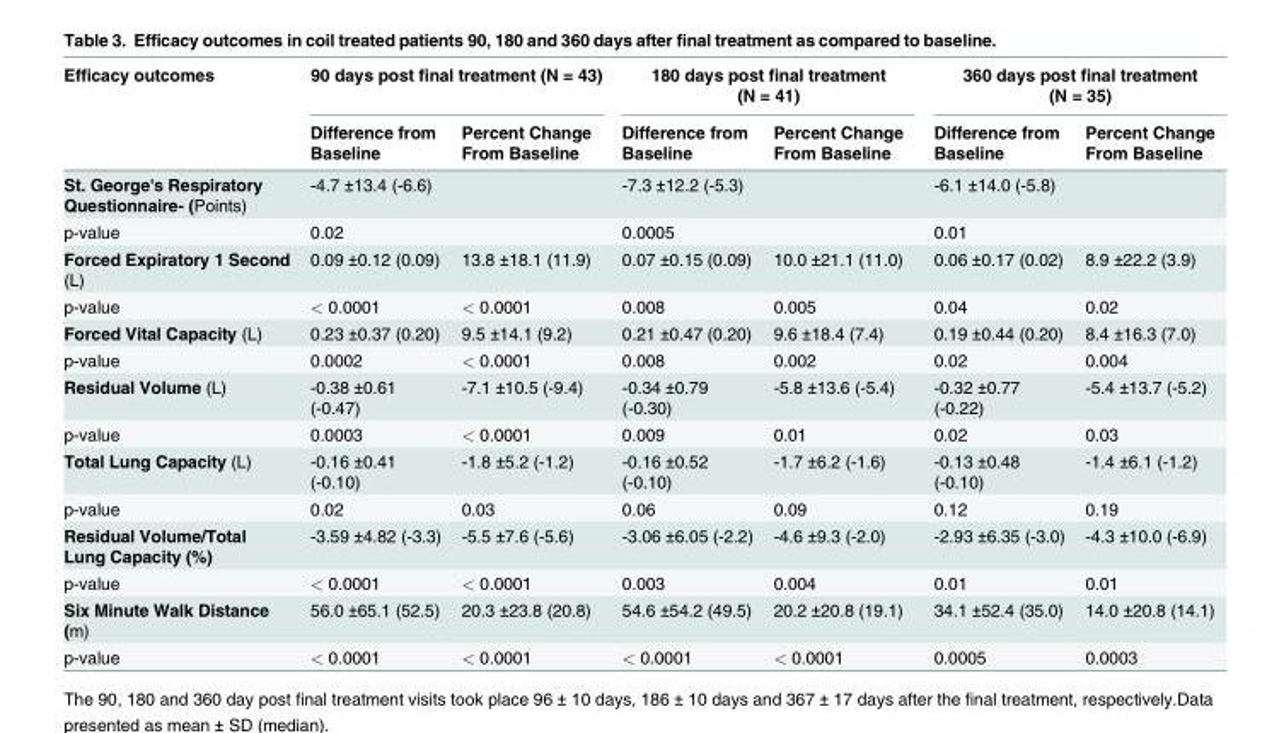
<table><thead><tr><td rowspan="2">Efficacy outcomes</td><td colspan="2">90 days post final treatment (N = 43)</td><td colspan="2">180 days post final treatment (N = 41)</td><td colspan="2">360 days post final treatment (N = 35)</td></tr><tr><td>Difference from Baseline</td><td>Percent Change From Baseline</td><td>Difference from Baseline</td><td>Percent Change From Baseline</td><td>Difference from Baseline</td><td>Percent Change From Baseline</td></tr></thead><tbody><tr><td>St. George&#x27;s Respiratory Questionnaire- (Points)</td><td>-4.7 ±13.4 (-6.6)</td><td></td><td>-7.3 ±12.2 (-5.3)</td><td></td><td>-6.1 ±14.0 (-5.8)</td><td></td></tr><tr><td>p-value</td><td>0.02</td><td></td><td>0.0005</td><td></td><td>0.01</td><td></td></tr><tr><td>Forced Expiratory 1 Second (L)</td><td>0.09 ±0.12 (0.09)</td><td>13.8 ±18.1 (11.9)</td><td>0.07 ±0.15 (0.09)</td><td>10.0 ±21.1 (11.0)</td><td>0.06 ±0.17 (0.02)</td><td>8.9 ±22.2 (3.9)</td></tr><tr><td>p-value</td><td>&lt; 0.0001</td><td>&lt; 0.0001</td><td>0.008</td><td>0.005</td><td>0.04</td><td>0.02</td></tr><tr><td>Forced Vital Capacity (L)</td><td>0.23 ±0.37 (0.20)</td><td>9.5 ±14.1 (9.2)</td><td>0.21 ±0.47 (0.20)</td><td>9.6 ±18.4 (7.4)</td><td>0.19 ±0.44 (0.20)</td><td>8.4 ±16.3 (7.0)</td></tr><tr><td>p-value</td><td>0.0002</td><td>&lt; 0.0001</td><td>0.008</td><td>0.002</td><td>0.02</td><td>0.004</td></tr><tr><td>Residual Volume (L)</td><td>-0.38 ±0.61 (-0.47)</td><td>-7.1 ±10.5 (-9.4)</td><td>-0.34 ±0.79 (-0.30)</td><td>-5.8 ±13.6 (-5.4)</td><td>-0.32 ±0.77 (-0.22)</td><td>-5.4 ±13.7 (-5.2)</td></tr><tr><td>p-value</td><td>0.0003</td><td>&lt; 0.0001</td><td>0.009</td><td>0.01</td><td>0.02</td><td>0.03</td></tr><tr><td>Total Lung Capacity (L)</td><td>-0.16 ±0.41 (-0.10)</td><td>-1.8 ±5.2 (-1.2)</td><td>-0.16 ±0.52 (-0.10)</td><td>-1.7 ±6.2 (-1.6)</td><td>-0.13 ±0.48 (-0.10)</td><td>-1.4 ±6.1 (-1.2)</td></tr><tr><td>p-value</td><td>0.02</td><td>0.03</td><td>0.06</td><td>0.09</td><td>0.12</td><td>0.19</td></tr><tr><td>Residual Volume/Total Lung Capacity (%)</td><td>-3.59 ±4.82 (-3.3)</td><td>-5.5 ±7.6 (-5.6)</td><td>-3.06 ±6.05 (-2.2)</td><td>-4.6 ±9.3 (-2.0)</td><td>-2.93 ±6.35 (-3.0)</td><td>-4.3 ±10.0 (-6.9)</td></tr><tr><td>p-value</td><td>&lt; 0.0001</td><td>&lt; 0.0001</td><td>0.003</td><td>0.004</td><td>0.01</td><td>0.01</td></tr><tr><td>Six Minute Walk Distance (m)</td><td>56.0 ±65.1 (52.5)</td><td>20.3 ±23.8 (20.8)</td><td>54.6 ±54.2 (49.5)</td><td>20.2 ±20.8 (19.1)</td><td>34.1 ±52.4 (35.0)</td><td>14.0 ±20.8 (14.1)</td></tr><tr><td>p-value</td><td>&lt; 0.0001</td><td>&lt; 0.0001</td><td>&lt; 0.0001</td><td>&lt; 0.0001</td><td>0.0005</td><td>0.0003</td></tr></tbody></table>